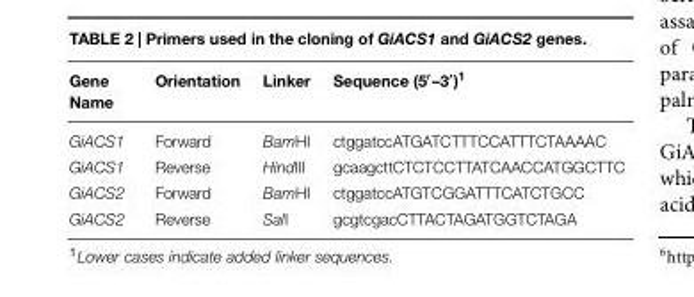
<table><thead><tr><td>Gene Name</td><td>Orientation</td><td>Linker</td><td>Sequence (5′–3′)<sup>1</sup></td></tr></thead><tbody><tr><td>GiACS1</td><td>Forward</td><td>BamHI</td><td>ctggatccATGATCTTTCCATTTCTAAAAC</td></tr><tr><td>GiACS1</td><td>Reverse</td><td>HindIII</td><td>gcaagcttCTCTCCTTATCAACCATGGCTTC</td></tr><tr><td>GiACS2</td><td>Forward</td><td>BamHI</td><td>ctggatccATGTCGGATTTCATCTGCC</td></tr><tr><td>GiACS2</td><td>Reverse</td><td>SalI</td><td>gcgtcgacCTTACTAGATGGTCTAGA</td></tr></tbody></table>